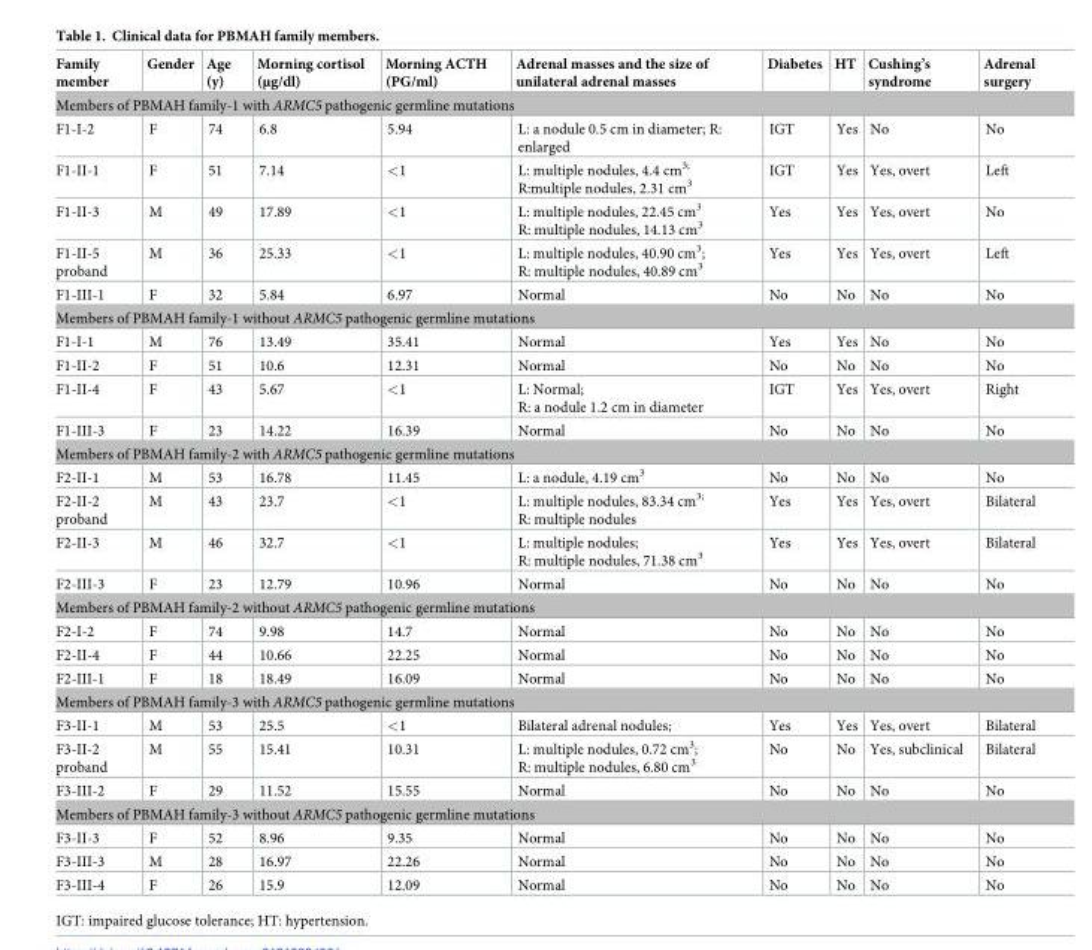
<table><thead><tr><td>Family member</td><td>Gender</td><td>Age (y)</td><td>Morning cortisol (μg/dl)</td><td>Morning ACTH (PG/ml)</td><td>Adrenal masses and the size of unilateral adrenal masses</td><td>Diabetes</td><td>HT</td><td>Cushing’s syndrome</td><td>Adrenal surgery</td></tr></thead><tbody><tr><td colspan="10">Members of PBMAH family-1 with ARMC5 pathogenic germline mutations</td></tr><tr><td>F1-I-2</td><td>F</td><td>74</td><td>6.8</td><td>5.94</td><td>L: a nodule 0.5 cm in diameter; R: enlarged</td><td>IGT</td><td>Yes</td><td>No</td><td>No</td></tr><tr><td>F1-II-1</td><td>F</td><td>51</td><td>7.14</td><td>&lt;1</td><td>L: multiple nodules, 4.4 cm<sup>3;</sup> R:multiple nodules, 2.31 cm<sup>3</sup></td><td>IGT</td><td>Yes</td><td>Yes, overt</td><td>Left</td></tr><tr><td>F1-II-3</td><td>M</td><td>49</td><td>17.89</td><td>&lt;1</td><td>L: multiple nodules, 22.45 cm<sup>3</sup> R: multiple nodules, 14.13 cm<sup>3</sup></td><td>Yes</td><td>Yes</td><td>Yes, overt</td><td>No</td></tr><tr><td>F1-II-5 proband</td><td>M</td><td>36</td><td>25.33</td><td>&lt;1</td><td>L: multiple nodules, 40.90 cm<sup>3</sup>; R: multiple nodules, 40.89 cm<sup>3</sup></td><td>Yes</td><td>Yes</td><td>Yes, overt</td><td>Left</td></tr><tr><td>F1-III-1</td><td>F</td><td>32</td><td>5.84</td><td>6.97</td><td>Normal</td><td>No</td><td>No</td><td>No</td><td>No</td></tr><tr><td colspan="10">Members of PBMAH family-1 without ARMC5 pathogenic germline mutations</td></tr><tr><td>F1-I-1</td><td>M</td><td>76</td><td>13.49</td><td>35.41</td><td>Normal</td><td>Yes</td><td>Yes</td><td>No</td><td>No</td></tr><tr><td>F1-II-2</td><td>F</td><td>51</td><td>10.6</td><td>12.31</td><td>Normal</td><td>No</td><td>No</td><td>No</td><td>No</td></tr><tr><td>F1-II-4</td><td>F</td><td>43</td><td>5.67</td><td>&lt;1</td><td>L: Normal; R: a nodule 1.2 cm in diameter</td><td>IGT</td><td>Yes</td><td>Yes, overt</td><td>Right</td></tr><tr><td>F1-III-3</td><td>F</td><td>23</td><td>14.22</td><td>16.39</td><td>Normal</td><td>No</td><td>No</td><td>No</td><td>No</td></tr><tr><td colspan="10">Members of PBMAH family-2 with ARMC5 pathogenic germline mutations</td></tr><tr><td>F2-II-1</td><td>M</td><td>53</td><td>16.78</td><td>11.45</td><td>L: a nodule, 4.19 cm<sup>3</sup></td><td>No</td><td>No</td><td>No</td><td>No</td></tr><tr><td>F2-II-2 proband</td><td>M</td><td>43</td><td>23.7</td><td>&lt;1</td><td>L: multiple nodules, 83.34 cm<sup>3;</sup> R: multiple nodules</td><td>Yes</td><td>Yes</td><td>Yes, overt</td><td>Bilateral</td></tr><tr><td>F2-II-3</td><td>M</td><td>46</td><td>32.7</td><td>&lt;1</td><td>L: multiple nodules; R: multiple nodules, 71.38 cm<sup>3</sup></td><td>Yes</td><td>Yes</td><td>Yes, overt</td><td>Bilateral</td></tr><tr><td>F2-III-3</td><td>F</td><td>23</td><td>12.79</td><td>10.96</td><td>Normal</td><td>No</td><td>No</td><td>No</td><td>No</td></tr><tr><td colspan="10">Members of PBMAH family-2 without ARMC5 pathogenic germline mutations</td></tr><tr><td>F2-I-2</td><td>F</td><td>74</td><td>9.98</td><td>14.7</td><td>Normal</td><td>No</td><td>No</td><td>No</td><td>No</td></tr><tr><td>F2-II-4</td><td>F</td><td>44</td><td>10.66</td><td>22.25</td><td>Normal</td><td>No</td><td>No</td><td>No</td><td>No</td></tr><tr><td>F2-III-1</td><td>F</td><td>18</td><td>18.49</td><td>16.09</td><td>Normal</td><td>No</td><td>No</td><td>No</td><td>No</td></tr><tr><td colspan="10">Members of PBMAH family-3 with ARMC5 pathogenic germline mutations</td></tr><tr><td>F3-II-1</td><td>M</td><td>53</td><td>25.5</td><td>&lt;1</td><td>Bilateral adrenal nodules;</td><td>Yes</td><td>Yes</td><td>Yes, overt</td><td>Bilateral</td></tr><tr><td>F3-II-2 proband</td><td>M</td><td>55</td><td>15.41</td><td>10.31</td><td>L: multiple nodules, 0.72 cm<sup>3</sup>; R: multiple nodules, 6.80 cm<sup>3</sup></td><td>No</td><td>No</td><td>Yes, subclinical</td><td>Bilateral</td></tr><tr><td>F3-III-2</td><td>F</td><td>29</td><td>11.52</td><td>15.55</td><td>Normal</td><td>No</td><td>No</td><td>No</td><td>No</td></tr><tr><td colspan="10">Members of PBMAH family-3 without ARMC5 pathogenic germline mutations</td></tr><tr><td>F3-II-3</td><td>F</td><td>52</td><td>8.96</td><td>9.35</td><td>Normal</td><td>No</td><td>No</td><td>No</td><td>No</td></tr><tr><td>F3-III-3</td><td>M</td><td>28</td><td>16.97</td><td>22.26</td><td>Normal</td><td>No</td><td>No</td><td>No</td><td>No</td></tr><tr><td>F3-III-4</td><td>F</td><td>26</td><td>15.9</td><td>12.09</td><td>Normal</td><td>No</td><td>No</td><td>No</td><td>No</td></tr></tbody></table>